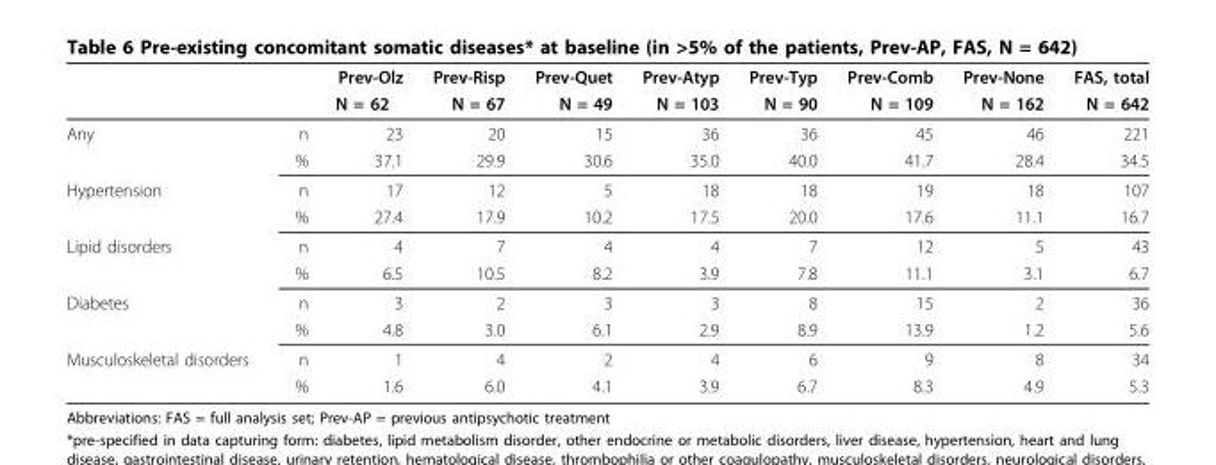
<table><thead><tr><td rowspan="2"></td><td rowspan="2"></td><td rowspan="2">Prev-Olz N = 62</td><td rowspan="2">Prev-Risp N = 67</td><td rowspan="2">Prev-Quet N = 49</td><td rowspan="2">Prev-Atyp N = 103</td><td rowspan="2">Prev-Typ N = 90</td><td rowspan="2">Prev-Comb N = 109</td><td rowspan="2">Prev-None N = 162</td><td rowspan="2">FAS, total N = 642</td></tr><tr></tr></thead><tbody><tr><td rowspan="2">Any</td><td>n</td><td>23</td><td>20</td><td>15</td><td>36</td><td>36</td><td>45</td><td>46</td><td>221</td></tr><tr><td>%</td><td>37.1</td><td>29.9</td><td>30.6</td><td>35.0</td><td>40.0</td><td>41.7</td><td>28.4</td><td>34.5</td></tr><tr><td rowspan="2">Hypertension</td><td>n</td><td>17</td><td>12</td><td>5</td><td>18</td><td>18</td><td>19</td><td>18</td><td>107</td></tr><tr><td>%</td><td>27.4</td><td>17.9</td><td>10.2</td><td>17.5</td><td>20.0</td><td>17.6</td><td>11.1</td><td>16.7</td></tr><tr><td rowspan="2">Lipid disorders</td><td>n</td><td>4</td><td>7</td><td>4</td><td>4</td><td>7</td><td>12</td><td>5</td><td>43</td></tr><tr><td>%</td><td>6.5</td><td>10.5</td><td>8.2</td><td>3.9</td><td>7.8</td><td>11.1</td><td>3.1</td><td>6.7</td></tr><tr><td rowspan="2">Diabetes</td><td>n</td><td>3</td><td>2</td><td>3</td><td>3</td><td>8</td><td>15</td><td>2</td><td>36</td></tr><tr><td>%</td><td>4.8</td><td>3.0</td><td>6.1</td><td>2.9</td><td>8.9</td><td>13.9</td><td>1.2</td><td>5.6</td></tr><tr><td rowspan="2">Musculoskeletal disorders</td><td>n</td><td>1</td><td>4</td><td>2</td><td>4</td><td>6</td><td>9</td><td>8</td><td>34</td></tr><tr><td>%</td><td>1.6</td><td>6.0</td><td>4.1</td><td>3.9</td><td>6.7</td><td>8.3</td><td>4.9</td><td>5.3</td></tr></tbody></table>